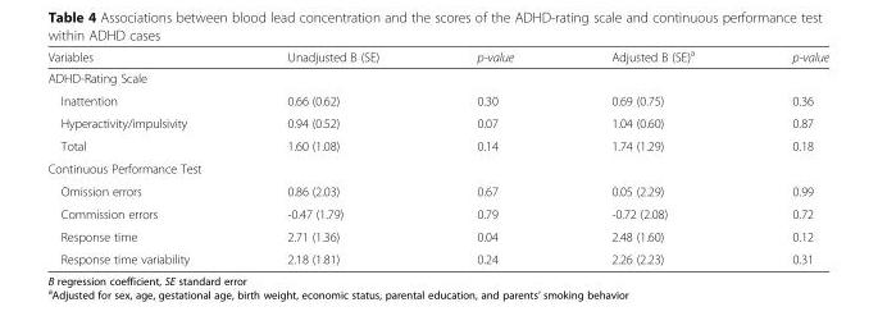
<table><thead><tr><td>Variables</td><td>Unadjusted B (SE)</td><td>p-value</td><td>Adjusted B (SE)<sup>a</sup></td><td>p-value</td></tr></thead><tbody><tr><td colspan="5">ADHD-Rating Scale</td></tr><tr><td>Inattention</td><td>0.66 (0.62)</td><td>0.30</td><td>0.69 (0.75)</td><td>0.36</td></tr><tr><td>Hyperactivity/impulsivity</td><td>0.94 (0.52)</td><td>0.07</td><td>1.04 (0.60)</td><td>0.87</td></tr><tr><td>Total</td><td>1.60 (1.08)</td><td>0.14</td><td>1.74 (1.29)</td><td>0.18</td></tr><tr><td colspan="5">Continuous Performance Test</td></tr><tr><td>Omission errors</td><td>0.86 (2.03)</td><td>0.67</td><td>0.05 (2.29)</td><td>0.99</td></tr><tr><td>Commission errors</td><td>-0.47 (1.79)</td><td>0.79</td><td>-0.72 (2.08)</td><td>0.72</td></tr><tr><td>Response time</td><td>2.71 (1.36)</td><td>0.04</td><td>2.48 (1.60)</td><td>0.12</td></tr><tr><td>Response time variability</td><td>2.18 (1.81)</td><td>0.24</td><td>2.26 (2.23)</td><td>0.31</td></tr></tbody></table>